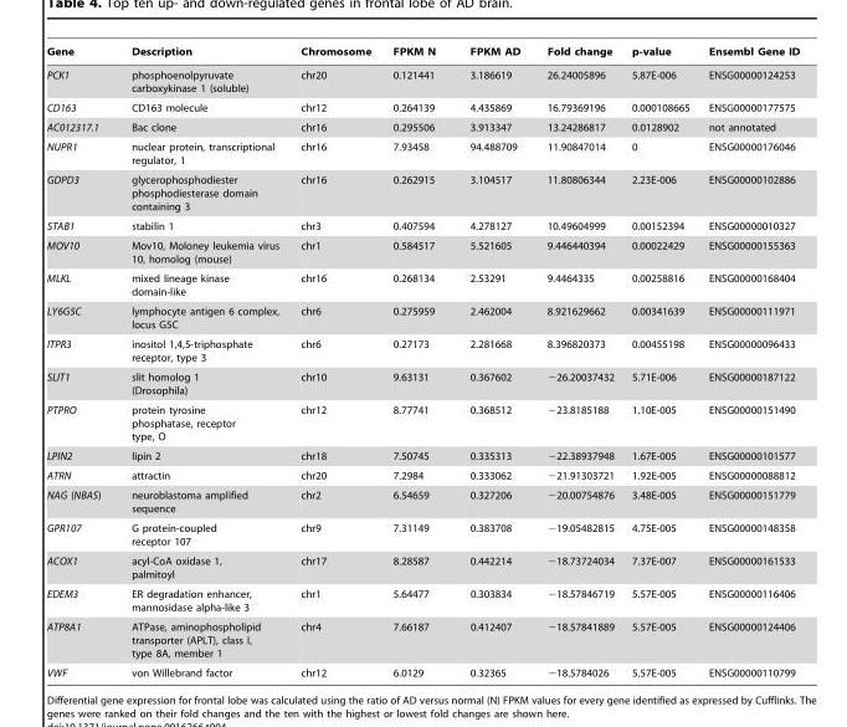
<table><thead><tr><td>Gene</td><td>Description</td><td>Chromosome</td><td>FPKM N</td><td>FPKM AD</td><td>Fold change</td><td>p-value</td><td>Ensembl Gene ID</td></tr></thead><tbody><tr><td>PCK1</td><td>phosphoenolpyruvate carboxykinase 1 (soluble)</td><td>chr20</td><td>0.121441</td><td>3.186619</td><td>26.24005896</td><td>5.87E-006</td><td>ENSG00000124253</td></tr><tr><td>CD163</td><td>CD163 molecule</td><td>chr12</td><td>0.264139</td><td>4.435869</td><td>16.79369196</td><td>0.000108665</td><td>ENSG00000177575</td></tr><tr><td>AC012317.1</td><td>Bac clone</td><td>chr16</td><td>0.295506</td><td>3.913347</td><td>13.24286817</td><td>0.0128902</td><td>not annotated</td></tr><tr><td>NUPR1</td><td>nuclear protein, transcriptional regulator, 1</td><td>chr16</td><td>7.93458</td><td>94.488709</td><td>11.90847014</td><td>0</td><td>ENSG00000176046</td></tr><tr><td>GDPD3</td><td>glycerophosphodiester phosphodiesterase domain containing 3</td><td>chr16</td><td>0.262915</td><td>3.104517</td><td>11.80806344</td><td>2.23E-006</td><td>ENSG00000102886</td></tr><tr><td>STAB1</td><td>stabilin 1</td><td>chr3</td><td>0.407594</td><td>4.278127</td><td>10.49604999</td><td>0.00152394</td><td>ENSG00000010327</td></tr><tr><td>MOV10</td><td>Mov10, Moloney leukemia virus 10, homolog (mouse)</td><td>chr1</td><td>0.584517</td><td>5.521605</td><td>9.446440394</td><td>0.00022429</td><td>ENSG00000155363</td></tr><tr><td>MLKL</td><td>mixed lineage kinase domain-like</td><td>chr16</td><td>0.268134</td><td>2.53291</td><td>9.4464335</td><td>0.00258816</td><td>ENSG00000168404</td></tr><tr><td>LY6G5C</td><td>lymphocyte antigen 6 complex, locus G5C</td><td>chr6</td><td>0.275959</td><td>2.462004</td><td>8.921629662</td><td>0.00341639</td><td>ENSG00000111971</td></tr><tr><td>ITPR3</td><td>inositol 1,4,5-triphosphate receptor, type 3</td><td>chr6</td><td>0.27173</td><td>2.281668</td><td>8.396820373</td><td>0.00455198</td><td>ENSG00000096433</td></tr><tr><td>SLIT1</td><td>slit homolog 1 (Drosophila)</td><td>chr10</td><td>9.63131</td><td>0.367602</td><td>−26.20037432</td><td>5.71E-006</td><td>ENSG00000187122</td></tr><tr><td>PTPRO</td><td>protein tyrosine phosphatase, receptor type, O</td><td>chr12</td><td>8.77741</td><td>0.368512</td><td>−23.8185188</td><td>1.10E-005</td><td>ENSG00000151490</td></tr><tr><td>LPIN2</td><td>lipin 2</td><td>chr18</td><td>7.50745</td><td>0.335313</td><td>−22.38937948</td><td>1.67E-005</td><td>ENSG00000101577</td></tr><tr><td>ATRN</td><td>attractin</td><td>chr20</td><td>7.2984</td><td>0.333062</td><td>−21.91303721</td><td>1.92E-005</td><td>ENSG00000088812</td></tr><tr><td>NAG (NBAS)</td><td>neuroblastoma amplified sequence</td><td>chr2</td><td>6.54659</td><td>0.327206</td><td>−20.00754876</td><td>3.48E-005</td><td>ENSG00000151779</td></tr><tr><td>GPR107</td><td>G protein-coupled receptor 107</td><td>chr9</td><td>7.31149</td><td>0.383708</td><td>−19.05482815</td><td>4.75E-005</td><td>ENSG00000148358</td></tr><tr><td>ACOX1</td><td>acyl-CoA oxidase 1, palmitoyl</td><td>chr17</td><td>8.28587</td><td>0.442214</td><td>−18.73724034</td><td>7.37E-007</td><td>ENSG00000161533</td></tr><tr><td>EDEM3</td><td>ER degradation enhancer, mannosidase alpha-like 3</td><td>chr1</td><td>5.64477</td><td>0.303834</td><td>−18.57846719</td><td>5.57E-005</td><td>ENSG00000116406</td></tr><tr><td>ATP8A1</td><td>ATPase, aminophospholipid transporter (APLT), class I, type 8A, member 1</td><td>chr4</td><td>7.66187</td><td>0.412407</td><td>−18.57841889</td><td>5.57E-005</td><td>ENSG00000124406</td></tr><tr><td>VWF</td><td>von Willebrand factor</td><td>chr12</td><td>6.0129</td><td>0.32365</td><td>−18.5784026</td><td>5.57E-005</td><td>ENSG00000110799</td></tr></tbody></table>